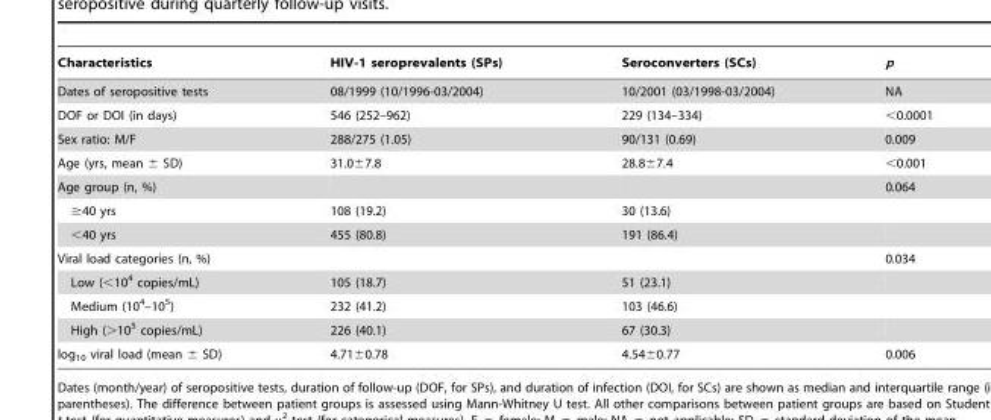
<table><thead><tr><td>Characteristics</td><td>HIV-1 seroprevalents (SPs)</td><td>Seroconverters (SCs)</td><td>p</td></tr></thead><tbody><tr><td>Dates of seropositive tests</td><td>08/1999 (10/1996-03/2004)</td><td>10/2001 (03/1998-03/2004)</td><td>NA</td></tr><tr><td>DOF or DOI (in days)</td><td>546 (252–962)</td><td>229 (134–334)</td><td>&lt;0.0001</td></tr><tr><td>Sex ratio: M/F</td><td>288/275 (1.05)</td><td>90/131 (0.69)</td><td>0.009</td></tr><tr><td>Age (yrs, mean ± SD)</td><td>31.0±7.8</td><td>28.8±7.4</td><td>&lt;0.001</td></tr><tr><td>Age group (n, %)</td><td></td><td></td><td>0.064</td></tr><tr><td>≥40 yrs</td><td>108 (19.2)</td><td>30 (13.6)</td><td></td></tr><tr><td>&lt;40 yrs</td><td>455 (80.8)</td><td>191 (86.4)</td><td></td></tr><tr><td>Viral load categories (n, %)</td><td></td><td></td><td>0.034</td></tr><tr><td>Low (&lt;10<sup>4</sup> copies/mL)</td><td>105 (18.7)</td><td>51 (23.1)</td><td></td></tr><tr><td>Medium (10<sup>4</sup>–10<sup>5</sup>)</td><td>232 (41.2)</td><td>103 (46.6)</td><td></td></tr><tr><td>High (&gt;10<sup>5</sup> copies/mL)</td><td>226 (40.1)</td><td>67 (30.3)</td><td></td></tr><tr><td>log<sub>10</sub> viral load (mean ± SD)</td><td>4.71±0.78</td><td>4.54±0.77</td><td>0.006</td></tr></tbody></table>